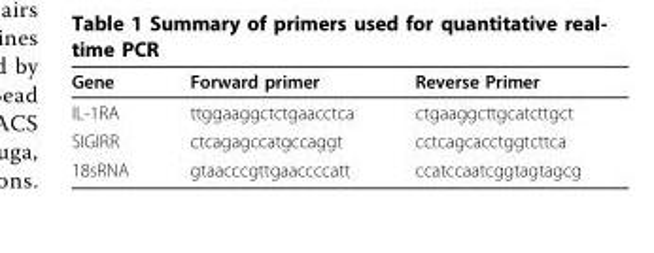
<table><thead><tr><td>Gene</td><td>Forward primer</td><td>Reverse Primer</td></tr></thead><tbody><tr><td>IL-1RA</td><td>ttggaaggctctgaacctca</td><td>ctgaaggcttgcatcttgct</td></tr><tr><td>SIGIRR</td><td>ctcagagccatgccaggt</td><td>cctcagcacctggtcttca</td></tr><tr><td>18sRNA</td><td>gtaacccgttgaaccccatt</td><td>ccatccaatcggtagtagcg</td></tr></tbody></table>